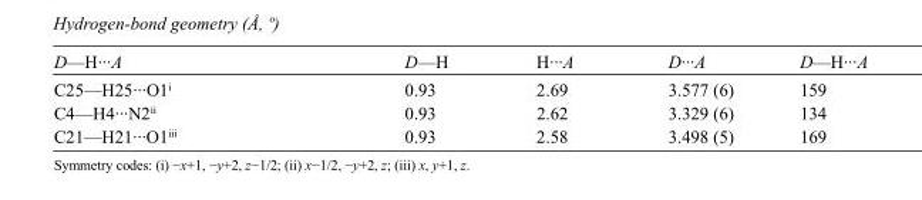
<table><tbody><tr><td>D—H···A</td><td>D—H</td><td>H···A</td><td>D···A</td><td>D—H···A</td></tr><tr><td>C25—H25···O1<sup>i</sup></td><td>0.93</td><td>2.69</td><td>3.577 (6)</td><td>159</td></tr><tr><td>C4—H4···N2<sup>ii</sup></td><td>0.93</td><td>2.62</td><td>3.329 (6)</td><td>134</td></tr><tr><td>C21—H21···O1<sup>iii</sup></td><td>0.93</td><td>2.58</td><td>3.498 (5)</td><td>169</td></tr></tbody></table>